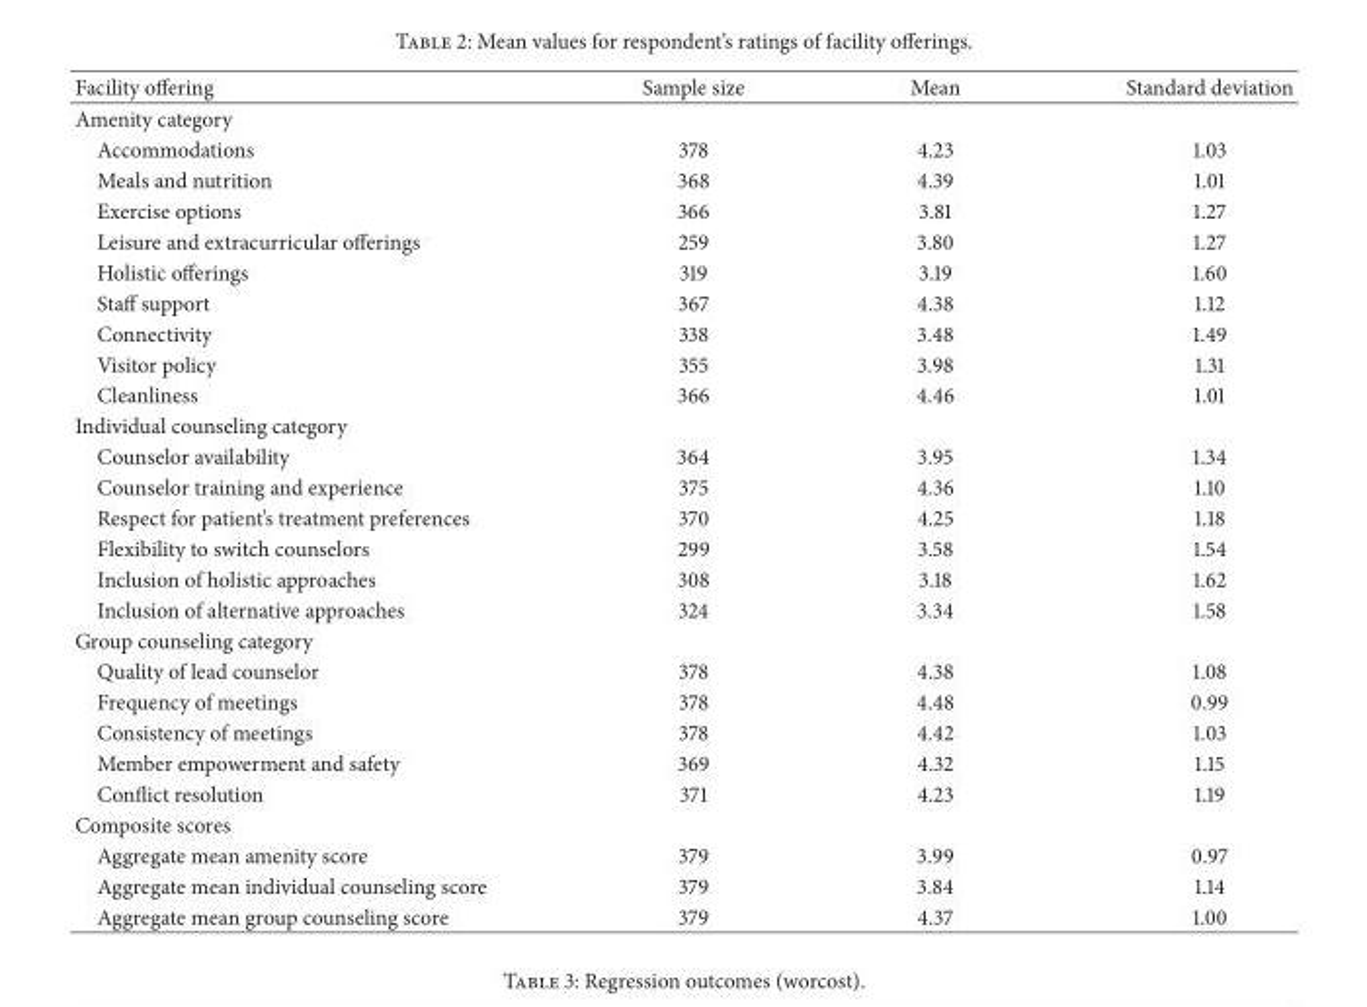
<table><thead><tr><td>Facility offering</td><td>Sample size</td><td>Mean</td><td>Standard deviation</td></tr></thead><tbody><tr><td colspan="4">Amenity category</td></tr><tr><td>Accommodations</td><td>378</td><td>4.23</td><td>1.03</td></tr><tr><td>Meals and nutrition</td><td>368</td><td>4.39</td><td>1.01</td></tr><tr><td>Exercise options</td><td>366</td><td>3.81</td><td>1.27</td></tr><tr><td>Leisure and extracurricular offerings</td><td>259</td><td>3.80</td><td>1.27</td></tr><tr><td>Holistic offerings</td><td>319</td><td>3.19</td><td>1.60</td></tr><tr><td>Staff support</td><td>367</td><td>4.38</td><td>1.12</td></tr><tr><td>Connectivity</td><td>338</td><td>3.48</td><td>1.49</td></tr><tr><td>Visitor policy</td><td>355</td><td>3.98</td><td>1.31</td></tr><tr><td>Cleanliness</td><td>366</td><td>4.46</td><td>1.01</td></tr><tr><td colspan="4">Individual counseling category</td></tr><tr><td>Counselor availability</td><td>364</td><td>3.95</td><td>1.34</td></tr><tr><td>Counselor training and experience</td><td>375</td><td>4.36</td><td>1.10</td></tr><tr><td>Respect for patient’s treatment preferences</td><td>370</td><td>4.25</td><td>1.18</td></tr><tr><td>Flexibility to switch counselors</td><td>299</td><td>3.58</td><td>1.54</td></tr><tr><td>Inclusion of holistic approaches</td><td>308</td><td>3.18</td><td>1.62</td></tr><tr><td>Inclusion of alternative approaches</td><td>324</td><td>3.34</td><td>1.58</td></tr><tr><td colspan="4">Group counseling category</td></tr><tr><td>Quality of lead counselor</td><td>378</td><td>4.38</td><td>1.08</td></tr><tr><td>Frequency of meetings</td><td>378</td><td>4.48</td><td>0.99</td></tr><tr><td>Consistency of meetings</td><td>378</td><td>4.42</td><td>1.03</td></tr><tr><td>Member empowerment and safety</td><td>369</td><td>4.32</td><td>1.15</td></tr><tr><td>Conflict resolution</td><td>371</td><td>4.23</td><td>1.19</td></tr><tr><td colspan="4">Composite scores</td></tr><tr><td>Aggregate mean amenity score</td><td>379</td><td>3.99</td><td>0.97</td></tr><tr><td>Aggregate mean individual counseling score</td><td>379</td><td>3.84</td><td>1.14</td></tr><tr><td>Aggregate mean group counseling score</td><td>379</td><td>4.37</td><td>1.00</td></tr></tbody></table>